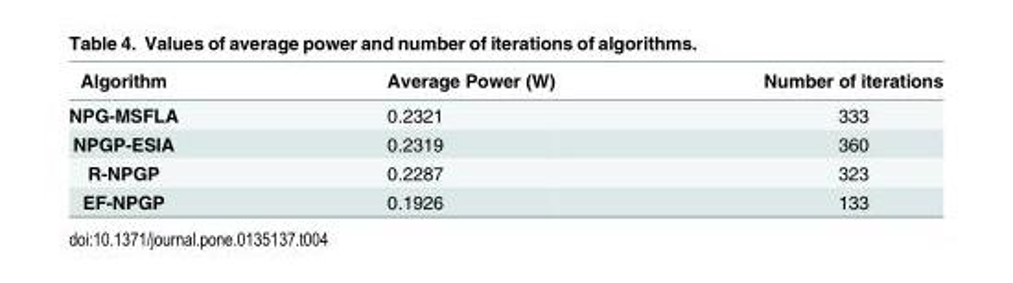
<table><thead><tr><td>Algorithm</td><td>Average Power (W)</td><td>Number of iterations</td></tr></thead><tbody><tr><td>NPG-MSFLA</td><td>0.2321</td><td>333</td></tr><tr><td>NPGP-ESIA</td><td>0.2319</td><td>360</td></tr><tr><td>R-NPGP</td><td>0.2287</td><td>323</td></tr><tr><td>EF-NPGP</td><td>0.1926</td><td>133</td></tr></tbody></table>